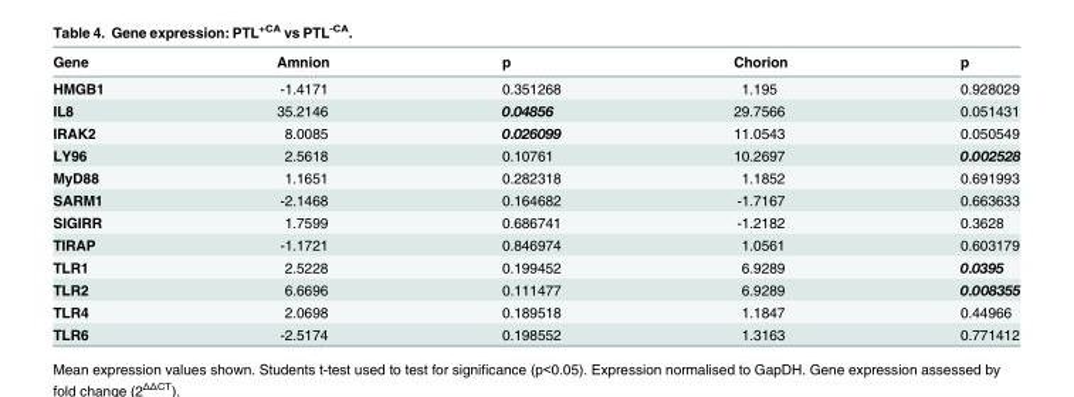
<table><thead><tr><td>Gene</td><td>Amnion</td><td>p</td><td>Chorion</td><td>p</td></tr></thead><tbody><tr><td>HMGB1</td><td>-1.4171</td><td>0.351268</td><td>1.195</td><td>0.928029</td></tr><tr><td>IL8</td><td>35.2146</td><td>0.04856</td><td>29.7566</td><td>0.051431</td></tr><tr><td>IRAK2</td><td>8.0085</td><td>0.026099</td><td>11.0543</td><td>0.050549</td></tr><tr><td>LY96</td><td>2.5618</td><td>0.10761</td><td>10.2697</td><td>0.002528</td></tr><tr><td>MyD88</td><td>1.1651</td><td>0.282318</td><td>1.1852</td><td>0.691993</td></tr><tr><td>SARM1</td><td>-2.1468</td><td>0.164682</td><td>-1.7167</td><td>0.663633</td></tr><tr><td>SIGIRR</td><td>1.7599</td><td>0.686741</td><td>-1.2182</td><td>0.3628</td></tr><tr><td>TIRAP</td><td>-1.1721</td><td>0.846974</td><td>1.0561</td><td>0.603179</td></tr><tr><td>TLR1</td><td>2.5228</td><td>0.199452</td><td>6.9289</td><td>0.0395</td></tr><tr><td>TLR2</td><td>6.6696</td><td>0.111477</td><td>6.9289</td><td>0.008355</td></tr><tr><td>TLR4</td><td>2.0698</td><td>0.189518</td><td>1.1847</td><td>0.44966</td></tr><tr><td>TLR6</td><td>-2.5174</td><td>0.198552</td><td>1.3163</td><td>0.771412</td></tr></tbody></table>